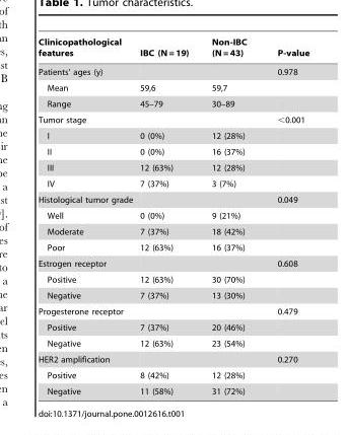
<table><thead><tr><td>Clinicopathological features</td><td>IBC (N = 19)</td><td>Non-IBC (N = 43)</td><td>P-value</td></tr></thead><tbody><tr><td>Patients’ ages (y)</td><td></td><td></td><td>0.978</td></tr><tr><td>Mean</td><td>59,6</td><td>59,7</td><td></td></tr><tr><td>Range</td><td>45–79</td><td>30–89</td><td></td></tr><tr><td>Tumor stage</td><td></td><td></td><td>&lt;0.001</td></tr><tr><td>I</td><td>0 (0%)</td><td>12 (28%)</td><td></td></tr><tr><td>II</td><td>0 (0%)</td><td>16 (37%)</td><td></td></tr><tr><td>III</td><td>12 (63%)</td><td>12 (28%)</td><td></td></tr><tr><td>IV</td><td>7 (37%)</td><td>3 (7%)</td><td></td></tr><tr><td>Histological tumor grade</td><td></td><td></td><td>0.049</td></tr><tr><td>Well</td><td>0 (0%)</td><td>9 (21%)</td><td></td></tr><tr><td>Moderate</td><td>7 (37%)</td><td>18 (42%)</td><td></td></tr><tr><td>Poor</td><td>12 (63%)</td><td>16 (37%)</td><td></td></tr><tr><td>Estrogen receptor</td><td></td><td></td><td>0.608</td></tr><tr><td>Positive</td><td>12 (63%)</td><td>30 (70%)</td><td></td></tr><tr><td>Negative</td><td>7 (37%)</td><td>13 (30%)</td><td></td></tr><tr><td>Progesterone receptor</td><td></td><td></td><td>0.479</td></tr><tr><td>Positive</td><td>7 (37%)</td><td>20 (46%)</td><td></td></tr><tr><td>Negative</td><td>12 (63%)</td><td>23 (54%)</td><td></td></tr><tr><td>HER2 amplification</td><td></td><td></td><td>0.270</td></tr><tr><td>Positive</td><td>8 (42%)</td><td>12 (28%)</td><td></td></tr><tr><td>Negative</td><td>11 (58%)</td><td>31 (72%)</td><td></td></tr></tbody></table>